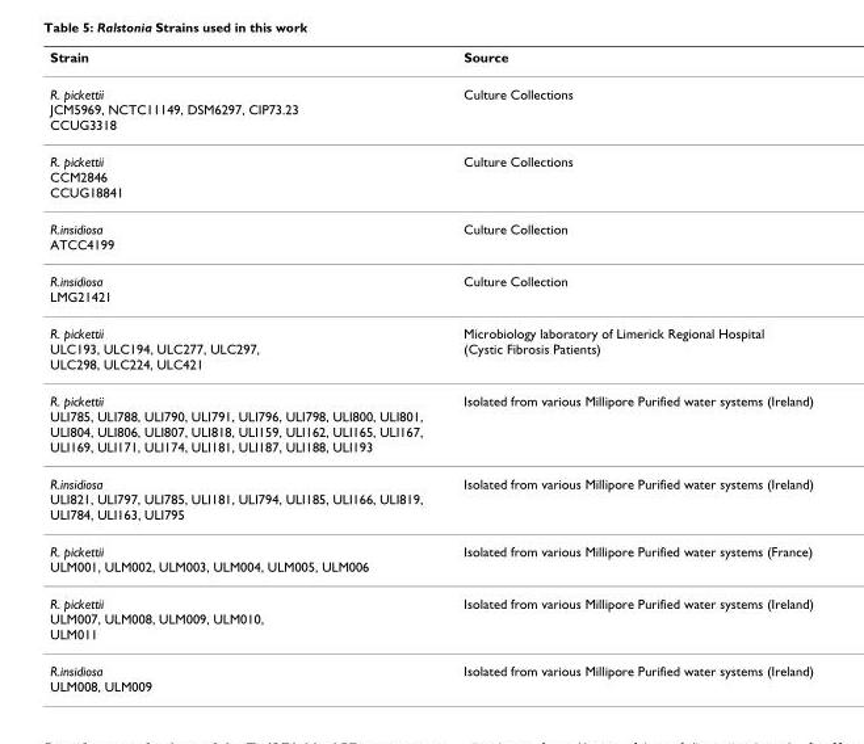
<table><thead><tr><td>Strain</td><td>Source</td></tr></thead><tbody><tr><td>R. pickettii JCM5969, NCTC11149, DSM6297, CIP73.23 CCUG3318</td><td>Culture Collections</td></tr><tr><td>R. pickettii CCM2846 CCUG18841</td><td>Culture Collections</td></tr><tr><td>R.insidiosa ATCC4199</td><td>Culture Collection</td></tr><tr><td>R.insidiosa LMG21421</td><td>Culture Collection</td></tr><tr><td>R. pickettii ULC193, ULC194, ULC277, ULC297, ULC298, ULC224, ULC421</td><td>Microbiology laboratory of Limerick Regional Hospital (Cystic Fibrosis Patients)</td></tr><tr><td>R. pickettii ULI785, ULI788, ULI790, ULI791, ULI796, ULI798, ULI800, ULI801, ULI804, ULI806, ULI807, ULI818, ULI159, ULI162, ULI165, ULI167, ULI169, ULI171, ULI174, ULI181, ULI187, ULI188, ULI193</td><td>Isolated from various Millipore Purified water systems (Ireland)</td></tr><tr><td>R.insidiosa ULI821, ULI797, ULI785, ULI181, ULI794, ULI185, ULI166, ULI819, ULI784, ULI163, ULI795</td><td>Isolated from various Millipore Purified water systems (Ireland)</td></tr><tr><td>R. pickettii ULM001, ULM002, ULM003, ULM004, ULM005, ULM006</td><td>Isolated from various Millipore Purified water systems (France)</td></tr><tr><td>R. pickettii ULM007, ULM008, ULM009, ULM010, ULM011</td><td>Isolated from various Millipore Purified water systems (Ireland)</td></tr><tr><td>R.insidiosa ULM008, ULM009</td><td>Isolated from various Millipore Purified water systems (Ireland)</td></tr></tbody></table>